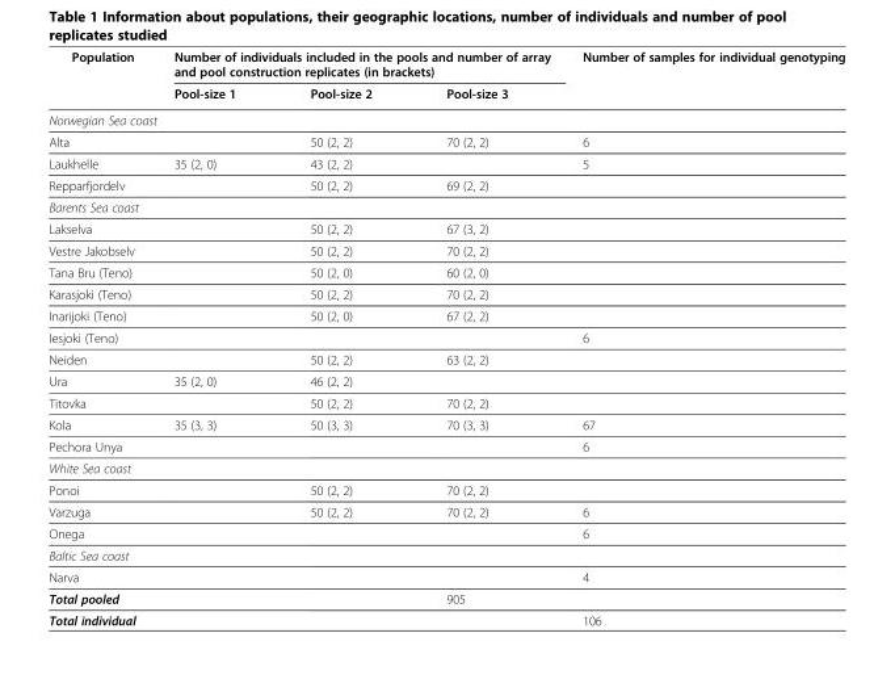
<table><thead><tr><td rowspan="2">Population</td><td colspan="3">Number of individuals included in the pools and number of array and pool construction replicates (in brackets)</td><td rowspan="2">Number of samples for individual genotyping</td></tr><tr><td>Pool-size 1</td><td>Pool-size 2</td><td>Pool-size 3</td></tr></thead><tbody><tr><td colspan="5">Norwegian Sea coast</td></tr><tr><td>Alta</td><td></td><td>50 (2, 2)</td><td>70 (2, 2)</td><td>6</td></tr><tr><td>Laukhelle</td><td>35 (2, 0)</td><td>43 (2, 2)</td><td></td><td>5</td></tr><tr><td>Repparfjordelv</td><td></td><td>50 (2, 2)</td><td>69 (2, 2)</td><td></td></tr><tr><td colspan="5">Barents Sea coast</td></tr><tr><td>Lakselva</td><td></td><td>50 (2, 2)</td><td>67 (3, 2)</td><td></td></tr><tr><td>Vestre Jakobselv</td><td></td><td>50 (2, 2)</td><td>70 (2, 2)</td><td></td></tr><tr><td>Tana Bru (Teno)</td><td></td><td>50 (2, 0)</td><td>60 (2, 0)</td><td></td></tr><tr><td>Karasjoki (Teno)</td><td></td><td>50 (2, 2)</td><td>70 (2, 2)</td><td></td></tr><tr><td>Inarijoki (Teno)</td><td></td><td>50 (2, 0)</td><td>67 (2, 2)</td><td></td></tr><tr><td>Iesjoki (Teno)</td><td></td><td></td><td></td><td>6</td></tr><tr><td>Neiden</td><td></td><td>50 (2, 2)</td><td>63 (2, 2)</td><td></td></tr><tr><td>Ura</td><td>35 (2, 0)</td><td>46 (2, 2)</td><td></td><td></td></tr><tr><td>Titovka</td><td></td><td>50 (2, 2)</td><td>70 (2, 2)</td><td></td></tr><tr><td>Kola</td><td>35 (3, 3)</td><td>50 (3, 3)</td><td>70 (3, 3)</td><td>67</td></tr><tr><td>Pechora Unya</td><td></td><td></td><td></td><td>6</td></tr><tr><td colspan="5">White Sea coast</td></tr><tr><td>Ponoi</td><td></td><td>50 (2, 2)</td><td>70 (2, 2)</td><td></td></tr><tr><td>Varzuga</td><td></td><td>50 (2, 2)</td><td>70 (2, 2)</td><td>6</td></tr><tr><td>Onega</td><td></td><td></td><td></td><td>6</td></tr><tr><td colspan="5">Baltic Sea coast</td></tr><tr><td>Narva</td><td></td><td></td><td></td><td>4</td></tr><tr><td>Total pooled</td><td></td><td></td><td>905</td><td></td></tr><tr><td>Total individual</td><td></td><td></td><td></td><td>106</td></tr></tbody></table>